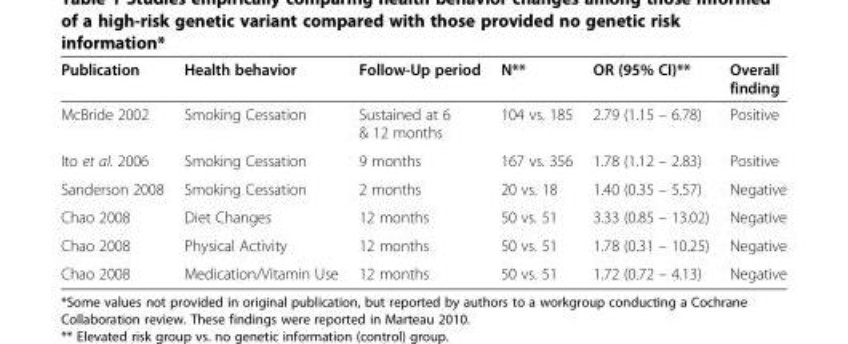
<table><thead><tr><td>Publication</td><td>Health behavior</td><td>Follow-Up period</td><td>N**</td><td>OR (95% CI)**</td><td>Overall finding</td></tr></thead><tbody><tr><td>McBride 2002</td><td>Smoking Cessation</td><td>Sustained at 6 &amp; 12 months</td><td>104 vs. 185</td><td>2.79 (1.15 – 6.78)</td><td>Positive</td></tr><tr><td>Ito et al. 2006</td><td>Smoking Cessation</td><td>9 months</td><td>167 vs. 356</td><td>1.78 (1.12 – 2.83)</td><td>Positive</td></tr><tr><td>Sanderson 2008</td><td>Smoking Cessation</td><td>2 months</td><td>20 vs. 18</td><td>1.40 (0.35 – 5.57)</td><td>Negative</td></tr><tr><td>Chao 2008</td><td>Diet Changes</td><td>12 months</td><td>50 vs. 51</td><td>3.33 (0.85 – 13.02)</td><td>Negative</td></tr><tr><td>Chao 2008</td><td>Physical Activity</td><td>12 months</td><td>50 vs. 51</td><td>1.78 (0.31 – 10.25)</td><td>Negative</td></tr><tr><td>Chao 2008</td><td>Medication/Vitamin Use</td><td>12 months</td><td>50 vs. 51</td><td>1.72 (0.72 – 4.13)</td><td>Negative</td></tr></tbody></table>